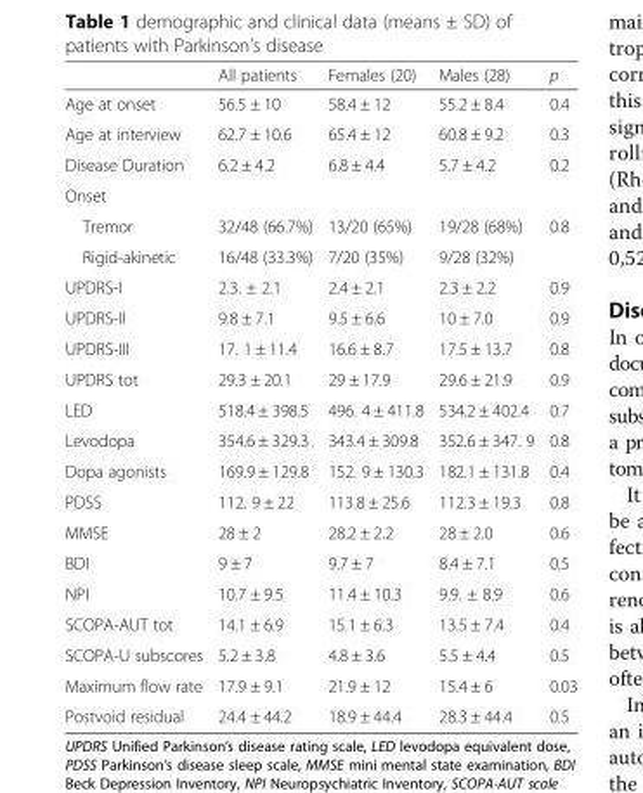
<table><thead><tr><td></td><td>All patients</td><td>Females (20)</td><td>Males (28)</td><td>p</td></tr></thead><tbody><tr><td>Age at onset</td><td>56.5 ± 10</td><td>58.4 ± 12</td><td>55.2 ± 8.4</td><td>0.4</td></tr><tr><td>Age at interview</td><td>62.7 ± 10.6</td><td>65.4 ± 12</td><td>60.8 ± 9.2</td><td>0.3</td></tr><tr><td>Disease Duration</td><td>6.2 ± 4.2</td><td>6.8 ± 4.4</td><td>5.7 ± 4.2</td><td>0.2</td></tr><tr><td colspan="5">Onset</td></tr><tr><td>Tremor</td><td>32/48 (66.7%)</td><td>13/20 (65%)</td><td>19/28 (68%)</td><td>0.8</td></tr><tr><td>Rigid-akinetic</td><td>16/48 (33.3%)</td><td>7/20 (35%)</td><td>9/28 (32%)</td><td></td></tr><tr><td>UPDRS-I</td><td>2.3. ± 2.1</td><td>2.4 ± 2.1</td><td>2.3 ± 2.2</td><td>0.9</td></tr><tr><td>UPDRS-II</td><td>9.8 ± 7.1</td><td>9.5 ± 6.6</td><td>10 ± 7.0</td><td>0.9</td></tr><tr><td>UPDRS-III</td><td>17. 1 ± 11.4</td><td>16.6 ± 8.7</td><td>17.5 ± 13.7</td><td>0.8</td></tr><tr><td>UPDRS tot</td><td>29.3 ± 20.1</td><td>29 ± 17.9</td><td>29.6 ± 21.9</td><td>0.9</td></tr><tr><td>LED</td><td>518.4 ± 398.5</td><td>496. 4 ± 411.8</td><td>534.2 ± 402.4</td><td>0.7</td></tr><tr><td>Levodopa</td><td>354.6 ± 329.3</td><td>343.4 ± 309.8</td><td>352.6 ± 347. 9</td><td>0.8</td></tr><tr><td>Dopa agonists</td><td>169.9 ± 129.8</td><td>152. 9 ± 130.3</td><td>182.1 ± 131.8</td><td>0.4</td></tr><tr><td>PDSS</td><td>112. 9 ± 22</td><td>113.8 ± 25.6</td><td>112.3 ± 19.3</td><td>0.8</td></tr><tr><td>MMSE</td><td>28 ± 2</td><td>28.2 ± 2.2</td><td>28 ± 2.0</td><td>0.6</td></tr><tr><td>BDI</td><td>9 ± 7</td><td>9.7 ± 7</td><td>8.4 ± 7.1</td><td>0.5</td></tr><tr><td>NPI</td><td>10.7 ± 9.5</td><td>11.4 ± 10.3</td><td>9.9. ± 8.9</td><td>0.6</td></tr><tr><td>SCOPA-AUT tot</td><td>14.1 ± 6.9</td><td>15.1 ± 6.3</td><td>13.5 ± 7.4</td><td>0.4</td></tr><tr><td>SCOPA-U subscores</td><td>5.2 ± 3.8</td><td>4.8 ± 3.6</td><td>5.5 ± 4.4</td><td>0.5</td></tr><tr><td>Maximum flow rate</td><td>17.9 ± 9.1</td><td>21.9 ± 12</td><td>15.4 ± 6</td><td>0.03</td></tr><tr><td>Postvoid residual</td><td>24.4 ± 44.2</td><td>18.9 ± 44.4</td><td>28.3 ± 44.4</td><td>0.5</td></tr></tbody></table>